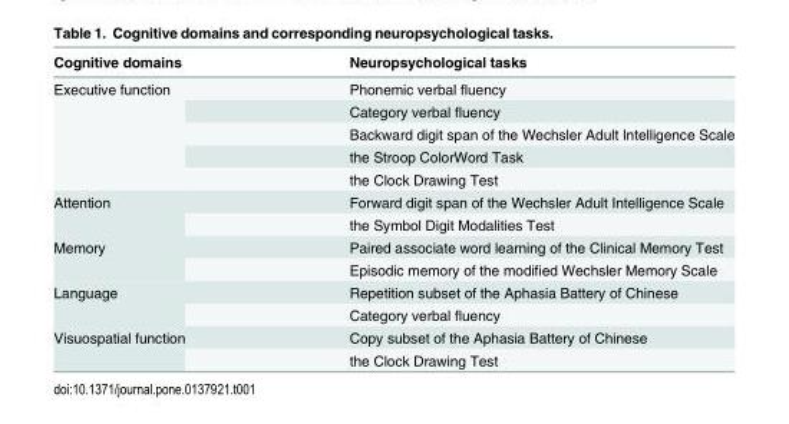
<table><thead><tr><td>Cognitive domains</td><td>Neuropsychological tasks</td></tr></thead><tbody><tr><td rowspan="5">Executive function</td><td>Phonemic verbal fluency</td></tr><tr><td>Category verbal fluency</td></tr><tr><td>Backward digit span of the Wechsler Adult Intelligence Scale</td></tr><tr><td>the Stroop ColorWord Task</td></tr><tr><td>the Clock Drawing Test</td></tr><tr><td rowspan="2">Attention</td><td>Forward digit span of the Wechsler Adult Intelligence Scale</td></tr><tr><td>the Symbol Digit Modalities Test</td></tr><tr><td rowspan="2">Memory</td><td>Paired associate word learning of the Clinical Memory Test</td></tr><tr><td>Episodic memory of the modified Wechsler Memory Scale</td></tr><tr><td rowspan="2">Language</td><td>Repetition subset of the Aphasia Battery of Chinese</td></tr><tr><td>Category verbal fluency</td></tr><tr><td rowspan="2">Visuospatial function</td><td>Copy subset of the Aphasia Battery of Chinese</td></tr><tr><td>the Clock Drawing Test</td></tr></tbody></table>